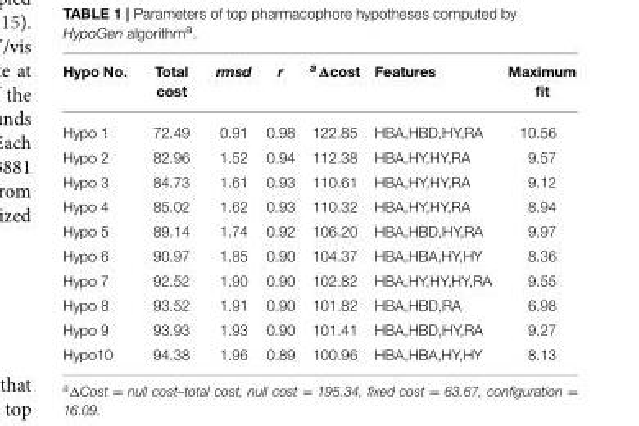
<table><thead><tr><td>Hypo No.</td><td>Total cost</td><td>rmsd</td><td>r</td><td><sup>a</sup>Δcost</td><td>Features</td><td>Maximum fit</td></tr></thead><tbody><tr><td>Hypo 1</td><td>72.49</td><td>0.91</td><td>0.98</td><td>122.85</td><td>HBA,HBD,HY,RA</td><td>10.56</td></tr><tr><td>Hypo 2</td><td>82.96</td><td>1.52</td><td>0.94</td><td>112.38</td><td>HBA,HY,HY,RA</td><td>9.57</td></tr><tr><td>Hypo 3</td><td>84.73</td><td>1.61</td><td>0.93</td><td>110.61</td><td>HBA,HY,HY,RA</td><td>9.12</td></tr><tr><td>Hypo 4</td><td>85.02</td><td>1.62</td><td>0.93</td><td>110.32</td><td>HBA,HY,HY,RA</td><td>8.94</td></tr><tr><td>Hypo 5</td><td>89.14</td><td>1.74</td><td>0.92</td><td>106.20</td><td>HBA,HBD,HY,RA</td><td>9.97</td></tr><tr><td>Hypo 6</td><td>90.97</td><td>1.85</td><td>0.90</td><td>104.37</td><td>HBA,HBA,HY,HY</td><td>8.36</td></tr><tr><td>Hypo 7</td><td>92.52</td><td>1.90</td><td>0.90</td><td>102.82</td><td>HBA,HY,HY,HY,RA</td><td>9.55</td></tr><tr><td>Hypo 8</td><td>93.52</td><td>1.91</td><td>0.90</td><td>101.82</td><td>HBA,HBD,RA</td><td>6.98</td></tr><tr><td>Hypo 9</td><td>93.93</td><td>1.93</td><td>0.90</td><td>101.41</td><td>HBA,HBD,HY,RA</td><td>9.27</td></tr><tr><td>Hypo10</td><td>94.38</td><td>1.96</td><td>0.89</td><td>100.96</td><td>HBA,HBA,HY,HY</td><td>8.13</td></tr></tbody></table>